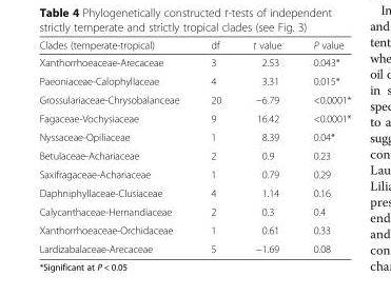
<table><thead><tr><td>Clades (temperate-tropical)</td><td>df</td><td>t value</td><td>P value</td></tr></thead><tbody><tr><td>Xanthorrhoeaceae-Arecaceae</td><td>3</td><td>2.53</td><td>0.043*</td></tr><tr><td>Paeoniaceae-Calophyllaceae</td><td>4</td><td>3.31</td><td>0.015*</td></tr><tr><td>Grossulariaceae-Chrysobalanceae</td><td>20</td><td>−6.79</td><td>&lt;0.0001*</td></tr><tr><td>Fagaceae-Vochysiaceae</td><td>9</td><td>16.42</td><td>&lt;0.0001*</td></tr><tr><td>Nyssaceae-Opiliaceae</td><td>1</td><td>8.39</td><td>0.04*</td></tr><tr><td>Betulaceae-Achariaceae</td><td>2</td><td>0.9</td><td>0.23</td></tr><tr><td>Saxifragaceae-Achariaceae</td><td>1</td><td>0.79</td><td>0.29</td></tr><tr><td>Daphniphyllaceae-Clusiaceae</td><td>4</td><td>1.14</td><td>0.16</td></tr><tr><td>Calycanthaceae-Hernandiaceae</td><td>2</td><td>0.3</td><td>0.4</td></tr><tr><td>Xanthorrhoeaceae-Orchidaceae</td><td>1</td><td>0.61</td><td>0.33</td></tr><tr><td>Lardizabalaceae-Arecaceae</td><td>5</td><td>−1.69</td><td>0.08</td></tr></tbody></table>